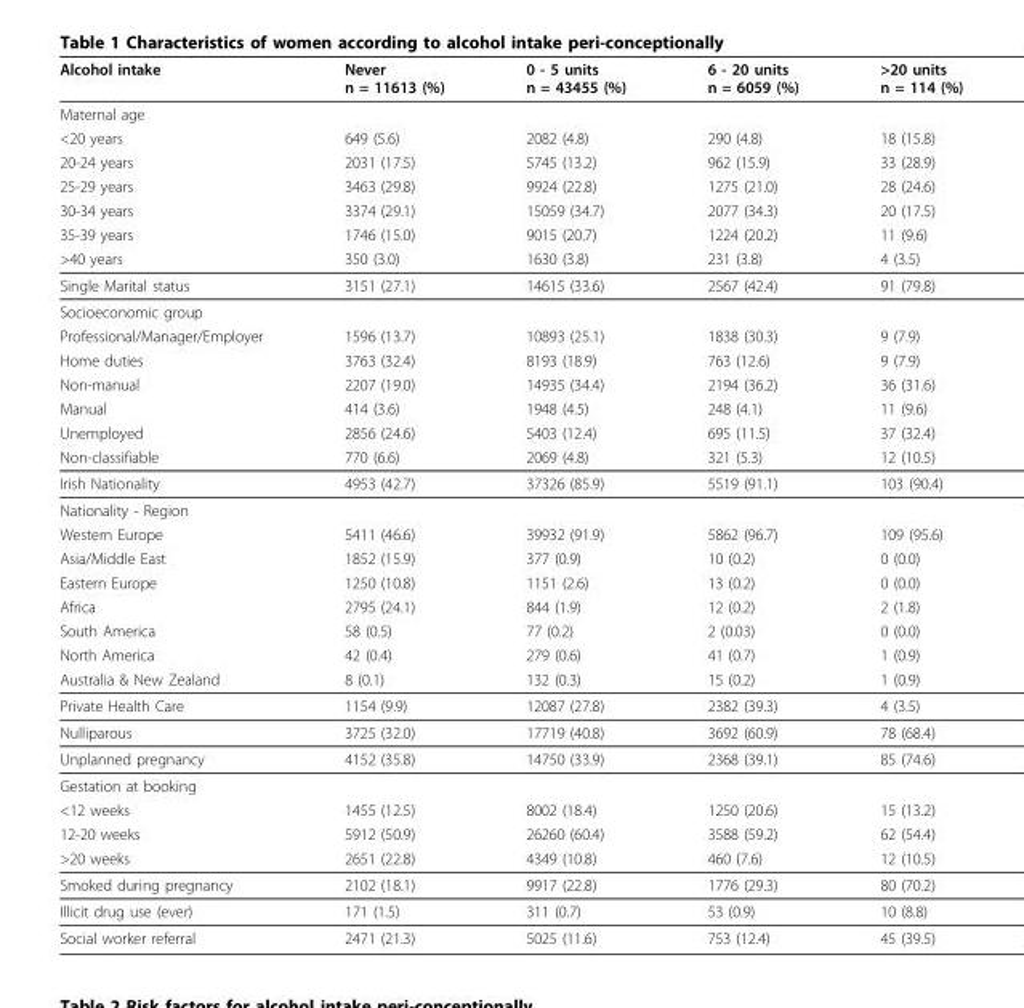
<table><thead><tr><td>Alcohol intake</td><td>Never n = 11613 (%)</td><td>0 - 5 units n = 43455 (%)</td><td>6 - 20 units n = 6059 (%)</td><td>&gt;20 units n = 114 (%)</td></tr></thead><tbody><tr><td colspan="5">Maternal age</td></tr><tr><td>&lt;20 years</td><td>649 (5.6)</td><td>2082 (4.8)</td><td>290 (4.8)</td><td>18 (15.8)</td></tr><tr><td>20-24 years</td><td>2031 (17.5)</td><td>5745 (13.2)</td><td>962 (15.9)</td><td>33 (28.9)</td></tr><tr><td>25-29 years</td><td>3463 (29.8)</td><td>9924 (22.8)</td><td>1275 (21.0)</td><td>28 (24.6)</td></tr><tr><td>30-34 years</td><td>3374 (29.1)</td><td>15059 (34.7)</td><td>2077 (34.3)</td><td>20 (17.5)</td></tr><tr><td>35-39 years</td><td>1746 (15.0)</td><td>9015 (20.7)</td><td>1224 (20.2)</td><td>11 (9.6)</td></tr><tr><td>&gt;40 years</td><td>350 (3.0)</td><td>1630 (3.8)</td><td>231 (3.8)</td><td>4 (3.5)</td></tr><tr><td>Single Marital status</td><td>3151 (27.1)</td><td>14615 (33.6)</td><td>2567 (42.4)</td><td>91 (79.8)</td></tr><tr><td colspan="5">Socioeconomic group</td></tr><tr><td>Professional/Manager/Employer</td><td>1596 (13.7)</td><td>10893 (25.1)</td><td>1838 (30.3)</td><td>9 (7.9)</td></tr><tr><td>Home duties</td><td>3763 (32.4)</td><td>8193 (18.9)</td><td>763 (12.6)</td><td>9 (7.9)</td></tr><tr><td>Non-manual</td><td>2207 (19.0)</td><td>14935 (34.4)</td><td>2194 (36.2)</td><td>36 (31.6)</td></tr><tr><td>Manual</td><td>414 (3.6)</td><td>1948 (4.5)</td><td>248 (4.1)</td><td>11 (9.6)</td></tr><tr><td>Unemployed</td><td>2856 (24.6)</td><td>5403 (12.4)</td><td>695 (11.5)</td><td>37 (32.4)</td></tr><tr><td>Non-classifiable</td><td>770 (6.6)</td><td>2069 (4.8)</td><td>321 (5.3)</td><td>12 (10.5)</td></tr><tr><td>Irish Nationality</td><td>4953 (42.7)</td><td>37326 (85.9)</td><td>5519 (91.1)</td><td>103 (90.4)</td></tr><tr><td colspan="5">Nationality - Region</td></tr><tr><td>Western Europe</td><td>5411 (46.6)</td><td>39932 (91.9)</td><td>5862 (96.7)</td><td>109 (95.6)</td></tr><tr><td>Asia/Middle East</td><td>1852 (15.9)</td><td>377 (0.9)</td><td>10 (0.2)</td><td>0 (0.0)</td></tr><tr><td>Eastern Europe</td><td>1250 (10.8)</td><td>1151 (2.6)</td><td>13 (0.2)</td><td>0 (0.0)</td></tr><tr><td>Africa</td><td>2795 (24.1)</td><td>844 (1.9)</td><td>12 (0.2)</td><td>2 (1.8)</td></tr><tr><td>South America</td><td>58 (0.5)</td><td>77 (0.2)</td><td>2 (0.03)</td><td>0 (0.0)</td></tr><tr><td>North America</td><td>42 (0.4)</td><td>279 (0.6)</td><td>41 (0.7)</td><td>1 (0.9)</td></tr><tr><td>Australia &amp; New Zealand</td><td>8 (0.1)</td><td>132 (0.3)</td><td>15 (0.2)</td><td>1 (0.9)</td></tr><tr><td>Private Health Care</td><td>1154 (9.9)</td><td>12087 (27.8)</td><td>2382 (39.3)</td><td>4 (3.5)</td></tr><tr><td>Nulliparous</td><td>3725 (32.0)</td><td>17719 (40.8)</td><td>3692 (60.9)</td><td>78 (68.4)</td></tr><tr><td>Unplanned pregnancy</td><td>4152 (35.8)</td><td>14750 (33.9)</td><td>2368 (39.1)</td><td>85 (74.6)</td></tr><tr><td colspan="5">Gestation at booking</td></tr><tr><td>&lt;12 weeks</td><td>1455 (12.5)</td><td>8002 (18.4)</td><td>1250 (20.6)</td><td>15 (13.2)</td></tr><tr><td>12-20 weeks</td><td>5912 (50.9)</td><td>26260 (60.4)</td><td>3588 (59.2)</td><td>62 (54.4)</td></tr><tr><td>&gt;20 weeks</td><td>2651 (22.8)</td><td>4349 (10.8)</td><td>460 (7.6)</td><td>12 (10.5)</td></tr><tr><td>Smoked during pregnancy</td><td>2102 (18.1)</td><td>9917 (22.8)</td><td>1776 (29.3)</td><td>80 (70.2)</td></tr><tr><td>Illicit drug use (ever)</td><td>171 (1.5)</td><td>311 (0.7)</td><td>53 (0.9)</td><td>10 (8.8)</td></tr><tr><td>Social worker referral</td><td>2471 (21.3)</td><td>5025 (11.6)</td><td>753 (12.4)</td><td>45 (39.5)</td></tr></tbody></table>